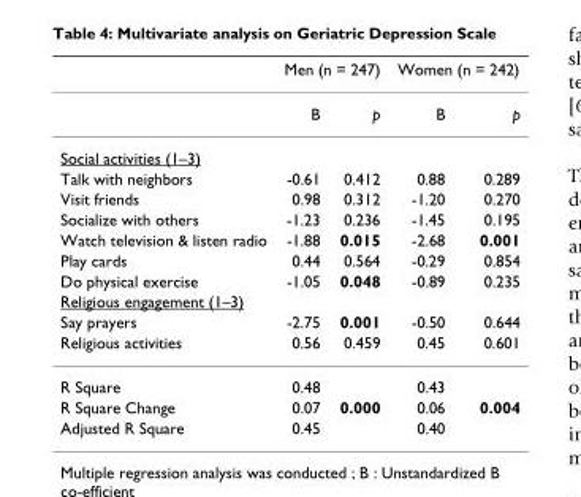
<table><thead><tr><td rowspan="2"></td><td colspan="2">Men (n = 247)</td><td colspan="2">Women (n = 242)</td></tr><tr><td>B</td><td>p</td><td>B</td><td>p</td></tr></thead><tbody><tr><td colspan="5">Social activities (1–3)</td></tr><tr><td>Talk with neighbors</td><td>-0.61</td><td>0.412</td><td>0.88</td><td>0.289</td></tr><tr><td>Visit friends</td><td>0.98</td><td>0.312</td><td>-1.20</td><td>0.270</td></tr><tr><td>Socialize with others</td><td>-1.23</td><td>0.236</td><td>-1.45</td><td>0.195</td></tr><tr><td>Watch television &amp; listen radio</td><td>-1.88</td><td>0.015</td><td>-2.68</td><td>0.001</td></tr><tr><td>Play cards</td><td>0.44</td><td>0.564</td><td>-0.29</td><td>0.854</td></tr><tr><td>Do physical exercise</td><td>-1.05</td><td>0.048</td><td>-0.89</td><td>0.235</td></tr><tr><td colspan="5">Religious engagement (1–3)</td></tr><tr><td>Say prayers</td><td>-2.75</td><td>0.001</td><td>-0.50</td><td>0.644</td></tr><tr><td>Religious activities</td><td>0.56</td><td>0.459</td><td>0.45</td><td>0.601</td></tr><tr><td>R Square</td><td>0.48</td><td></td><td>0.43</td><td></td></tr><tr><td>R Square Change</td><td>0.07</td><td>0.000</td><td>0.06</td><td>0.004</td></tr><tr><td>Adjusted R Square</td><td>0.45</td><td></td><td>0.40</td><td></td></tr></tbody></table>